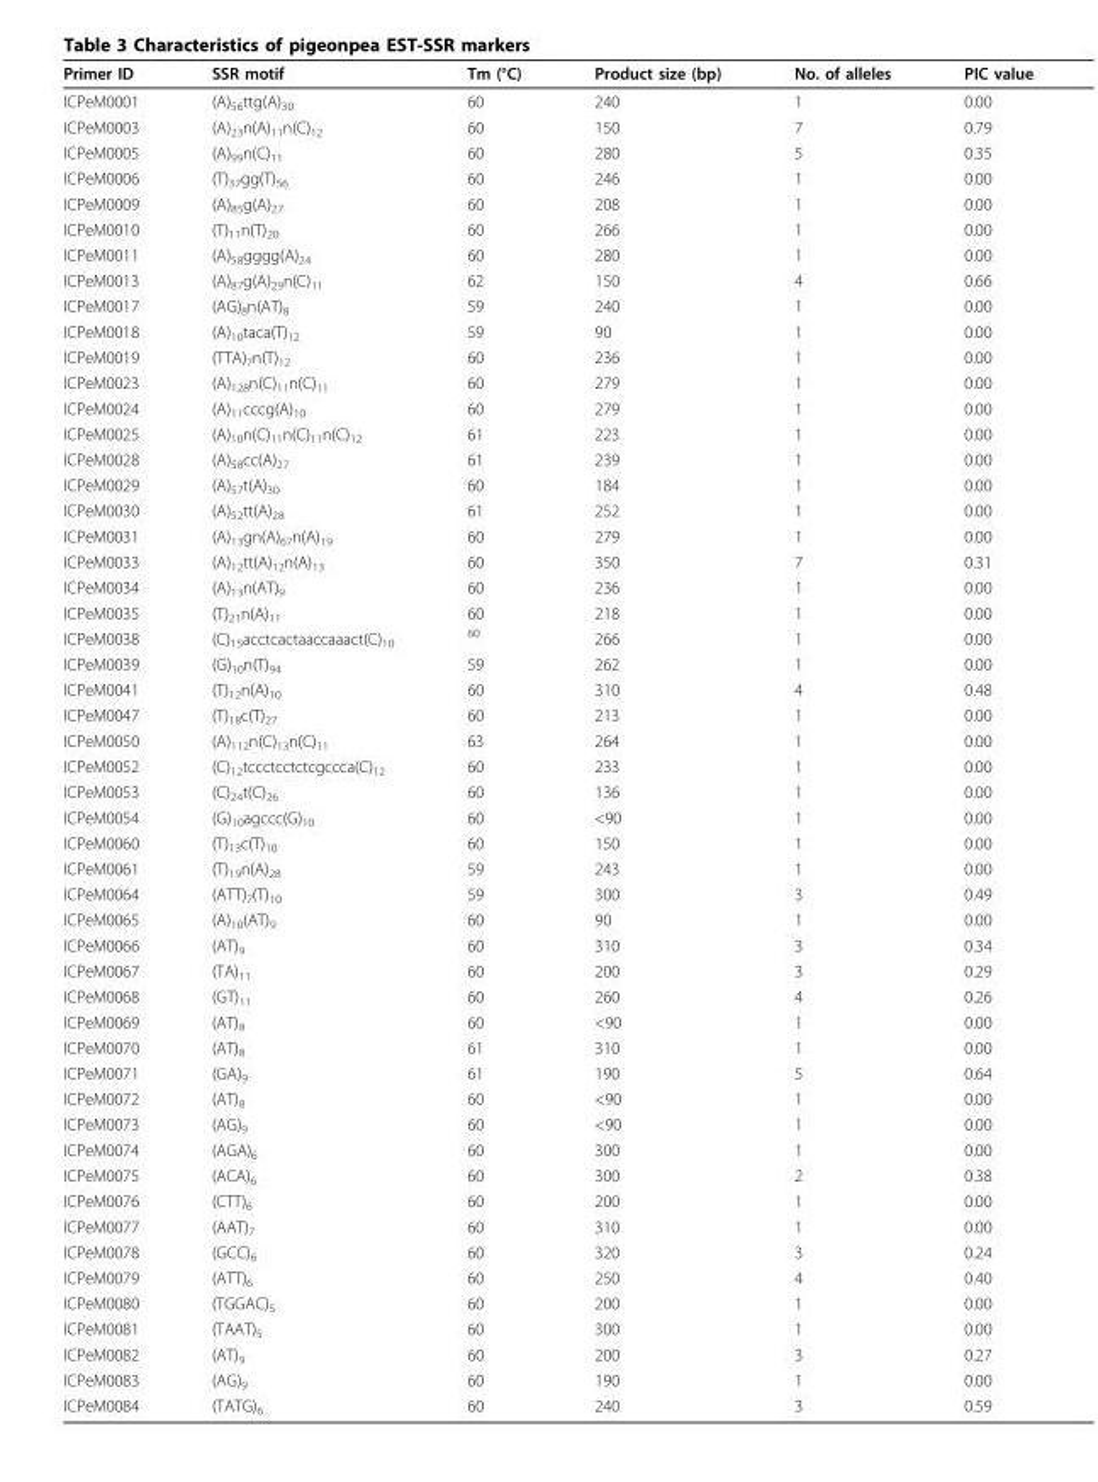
<table><thead><tr><td>Primer ID</td><td>SSR motif</td><td>Tm (°C)</td><td>Product size (bp)</td><td>No. of alleles</td><td>PIC value</td></tr></thead><tbody><tr><td>ICPeM0001</td><td>(A)<sub>56</sub>ttg(A)<sub>30</sub></td><td>60</td><td>240</td><td>1</td><td>0.00</td></tr><tr><td>ICPeM0003</td><td>(A)<sub>23</sub>n(A)<sub>11</sub>n(C)<sub>12</sub></td><td>60</td><td>150</td><td>7</td><td>0.79</td></tr><tr><td>ICPeM0005</td><td>(A)<sub>99</sub>n(C)<sub>11</sub></td><td>60</td><td>280</td><td>5</td><td>0.35</td></tr><tr><td>ICPeM0006</td><td>(T)<sub>37</sub>gg(T)<sub>56</sub></td><td>60</td><td>246</td><td>1</td><td>0.00</td></tr><tr><td>ICPeM0009</td><td>(A)<sub>85</sub>g(A)<sub>27</sub></td><td>60</td><td>208</td><td>1</td><td>0.00</td></tr><tr><td>ICPeM0010</td><td>(T)<sub>11</sub>n(T)<sub>20</sub></td><td>60</td><td>266</td><td>1</td><td>0.00</td></tr><tr><td>ICPeM0011</td><td>(A)<sub>58</sub>gggg(A)<sub>24</sub></td><td>60</td><td>280</td><td>1</td><td>0.00</td></tr><tr><td>ICPeM0013</td><td>(A)<sub>87</sub>g(A)<sub>29</sub>n(C)<sub>11</sub></td><td>62</td><td>150</td><td>4</td><td>0.66</td></tr><tr><td>ICPeM0017</td><td>(AG)<sub>8</sub>n(AT)<sub>8</sub></td><td>59</td><td>240</td><td>1</td><td>0.00</td></tr><tr><td>ICPeM0018</td><td>(A)<sub>10</sub>taca(T)<sub>12</sub></td><td>59</td><td>90</td><td>1</td><td>0.00</td></tr><tr><td>ICPeM0019</td><td>(TTA)<sub>7</sub>n(T)<sub>12</sub></td><td>60</td><td>236</td><td>1</td><td>0.00</td></tr><tr><td>ICPeM0023</td><td>(A)<sub>128</sub>n(C)<sub>11</sub>n(C)<sub>11</sub></td><td>60</td><td>279</td><td>1</td><td>0.00</td></tr><tr><td>ICPeM0024</td><td>(A)<sub>11</sub>cccg(A)<sub>10</sub></td><td>60</td><td>279</td><td>1</td><td>0.00</td></tr><tr><td>ICPeM0025</td><td>(A)<sub>10</sub>n(C)<sub>11</sub>n(C)<sub>11</sub>n(C)<sub>12</sub></td><td>61</td><td>223</td><td>1</td><td>0.00</td></tr><tr><td>ICPeM0028</td><td>(A)<sub>58</sub>cc(A)<sub>27</sub></td><td>61</td><td>239</td><td>1</td><td>0.00</td></tr><tr><td>ICPeM0029</td><td>(A)<sub>57</sub>t(A)<sub>30</sub></td><td>60</td><td>184</td><td>1</td><td>0.00</td></tr><tr><td>ICPeM0030</td><td>(A)<sub>52</sub>tt(A)<sub>28</sub></td><td>61</td><td>252</td><td>1</td><td>0.00</td></tr><tr><td>ICPeM0031</td><td>(A)<sub>13</sub>gn(A)<sub>67</sub>n(A)<sub>19</sub></td><td>60</td><td>279</td><td>1</td><td>0.00</td></tr><tr><td>ICPeM0033</td><td>(A)<sub>12</sub>tt(A)<sub>12</sub>n(A)<sub>13</sub></td><td>60</td><td>350</td><td>7</td><td>0.31</td></tr><tr><td>ICPeM0034</td><td>(A)<sub>13</sub>n(AT)<sub>9</sub></td><td>60</td><td>236</td><td>1</td><td>0.00</td></tr><tr><td>ICPeM0035</td><td>(T)<sub>21</sub>n(A)<sub>11</sub></td><td>60</td><td>218</td><td>1</td><td>0.00</td></tr><tr><td>ICPeM0038</td><td>(C)<sub>15</sub>acctcactaaccaaact(C)<sub>10</sub></td><td><sup>60</sup></td><td>266</td><td>1</td><td>0.00</td></tr><tr><td>ICPeM0039</td><td>(G)<sub>10</sub>n(T)<sub>94</sub></td><td>59</td><td>262</td><td>1</td><td>0.00</td></tr><tr><td>ICPeM0041</td><td>(T)<sub>12</sub>n(A)<sub>10</sub></td><td>60</td><td>310</td><td>4</td><td>0.48</td></tr><tr><td>ICPeM0047</td><td>(T)<sub>18</sub>c(T)<sub>27</sub></td><td>60</td><td>213</td><td>1</td><td>0.00</td></tr><tr><td>ICPeM0050</td><td>(A)<sub>112</sub>n(C)<sub>13</sub>n(C)<sub>11</sub></td><td>63</td><td>264</td><td>1</td><td>0.00</td></tr><tr><td>ICPeM0052</td><td>(C)<sub>12</sub>tccctcctctcgccca(C)<sub>12</sub></td><td>60</td><td>233</td><td>1</td><td>0.00</td></tr><tr><td>ICPeM0053</td><td>(C)<sub>24</sub>t(C)<sub>26</sub></td><td>60</td><td>136</td><td>1</td><td>0.00</td></tr><tr><td>ICPeM0054</td><td>(G)<sub>10</sub>agccc(G)<sub>10</sub></td><td>60</td><td>&lt;90</td><td>1</td><td>0.00</td></tr><tr><td>ICPeM0060</td><td>(T)<sub>13</sub>c(T)<sub>10</sub></td><td>60</td><td>150</td><td>1</td><td>0.00</td></tr><tr><td>ICPeM0061</td><td>(T)<sub>19</sub>n(A)<sub>28</sub></td><td>59</td><td>243</td><td>1</td><td>0.00</td></tr><tr><td>ICPeM0064</td><td>(ATT)<sub>7</sub>(T)<sub>10</sub></td><td>59</td><td>300</td><td>3</td><td>0.49</td></tr><tr><td>ICPeM0065</td><td>(A)<sub>10</sub>(AT)<sub>9</sub></td><td>60</td><td>90</td><td>1</td><td>0.00</td></tr><tr><td>ICPeM0066</td><td>(AT)<sub>9</sub></td><td>60</td><td>310</td><td>3</td><td>0.34</td></tr><tr><td>ICPeM0067</td><td>(TA)<sub>11</sub></td><td>60</td><td>200</td><td>3</td><td>0.29</td></tr><tr><td>ICPeM0068</td><td>(GT)<sub>11</sub></td><td>60</td><td>260</td><td>4</td><td>0.26</td></tr><tr><td>ICPeM0069</td><td>(AT)<sub>8</sub></td><td>60</td><td>&lt;90</td><td>1</td><td>0.00</td></tr><tr><td>ICPeM0070</td><td>(AT)<sub>8</sub></td><td>61</td><td>310</td><td>1</td><td>0.00</td></tr><tr><td>ICPeM0071</td><td>(GA)<sub>9</sub></td><td>61</td><td>190</td><td>5</td><td>0.64</td></tr><tr><td>ICPeM0072</td><td>(AT)<sub>8</sub></td><td>60</td><td>&lt;90</td><td>1</td><td>0.00</td></tr><tr><td>ICPeM0073</td><td>(AG)<sub>9</sub></td><td>60</td><td>&lt;90</td><td>1</td><td>0.00</td></tr><tr><td>ICPeM0074</td><td>(AGA)<sub>6</sub></td><td>60</td><td>300</td><td>1</td><td>0.00</td></tr><tr><td>ICPeM0075</td><td>(ACA)<sub>6</sub></td><td>60</td><td>300</td><td>2</td><td>0.38</td></tr><tr><td>ICPeM0076</td><td>(CTT)<sub>6</sub></td><td>60</td><td>200</td><td>1</td><td>0.00</td></tr><tr><td>ICPeM0077</td><td>(AAT)<sub>7</sub></td><td>60</td><td>310</td><td>1</td><td>0.00</td></tr><tr><td>ICPeM0078</td><td>(GCC)<sub>6</sub></td><td>60</td><td>320</td><td>3</td><td>0.24</td></tr><tr><td>ICPeM0079</td><td>(ATT)<sub>6</sub></td><td>60</td><td>250</td><td>4</td><td>0.40</td></tr><tr><td>ICPeM0080</td><td>(TGGAC)<sub>5</sub></td><td>60</td><td>200</td><td>1</td><td>0.00</td></tr><tr><td>ICPeM0081</td><td>(TAAT)<sub>5</sub></td><td>60</td><td>300</td><td>1</td><td>0.00</td></tr><tr><td>ICPeM0082</td><td>(AT)<sub>9</sub></td><td>60</td><td>200</td><td>3</td><td>0.27</td></tr><tr><td>ICPeM0083</td><td>(AG)<sub>9</sub></td><td>60</td><td>190</td><td>1</td><td>0.00</td></tr><tr><td>ICPeM0084</td><td>(TATG)<sub>6</sub></td><td>60</td><td>240</td><td>3</td><td>0.59</td></tr></tbody></table>